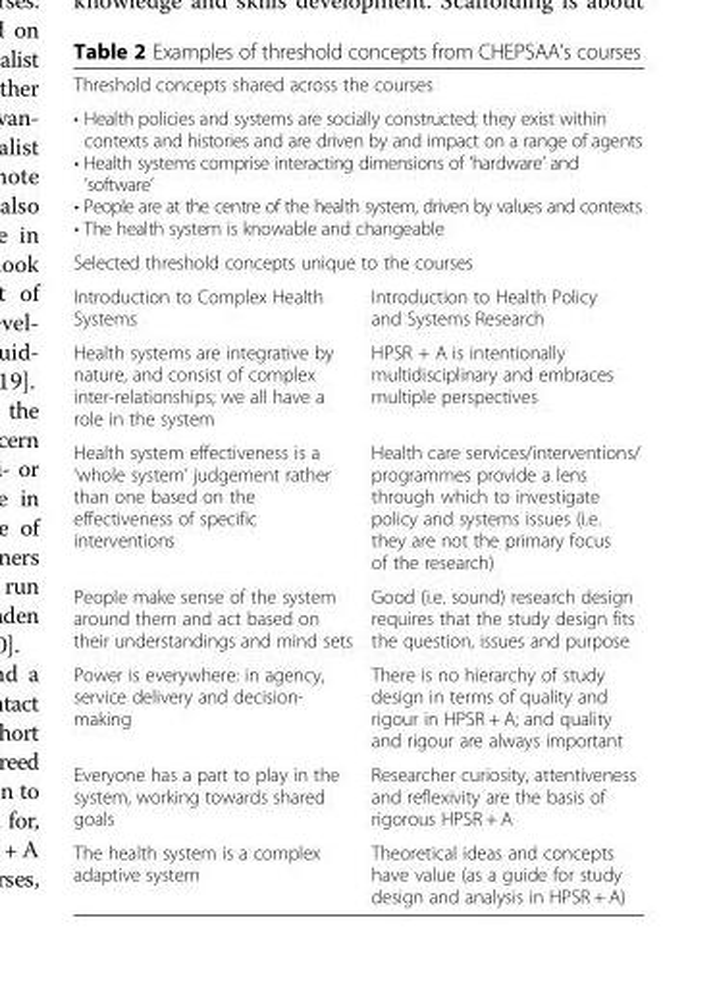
<table><tbody><tr><td colspan="2">Threshold concepts shared across the courses</td></tr><tr><td colspan="2">• Health policies and systems are socially constructed; they exist within contexts and histories and are driven by and impact on a range of agents • Health systems comprise interacting dimensions of ‘hardware’ and ‘software’ • People are at the centre of the health system, driven by values and contexts • The health system is knowable and changeable</td></tr><tr><td colspan="2">Selected threshold concepts unique to the courses</td></tr><tr><td>Introduction to Complex Health Systems</td><td>Introduction to Health Policy and Systems Research</td></tr><tr><td>Health systems are integrative by nature, and consist of complex inter-relationships; we all have a role in the system</td><td>HPSR + A is intentionally multidisciplinary and embraces multiple perspectives</td></tr><tr><td>Health system effectiveness is a ‘whole system’ judgement rather than one based on the effectiveness of specific interventions</td><td>Health care services/interventions/ programmes provide a lens through which to investigate policy and systems issues (i.e. they are not the primary focus of the research)</td></tr><tr><td>People make sense of the system around them and act based on their understandings and mind sets</td><td>Good (i.e. sound) research design requires that the study design fits the question, issues and purpose</td></tr><tr><td>Power is everywhere: in agency, service delivery and decision- making</td><td>There is no hierarchy of study design in terms of quality and rigour in HPSR + A; and quality and rigour are always important</td></tr><tr><td>Everyone has a part to play in the system, working towards shared goals</td><td>Researcher curiosity, attentiveness and reflexivity are the basis of rigorous HPSR + A</td></tr><tr><td>The health system is a complex adaptive system</td><td>Theoretical ideas and concepts have value (as a guide for study design and analysis in HPSR + A)</td></tr></tbody></table>